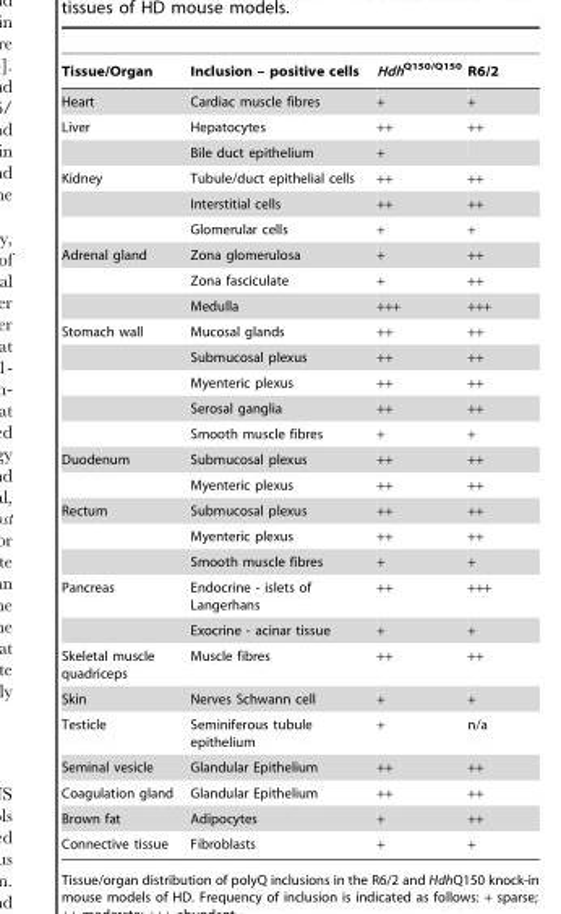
<table><thead><tr><td>Tissue/Organ</td><td>Inclusion – positive cells</td><td>Hdh<sup>Q150/Q150</sup></td><td>R6/2</td></tr></thead><tbody><tr><td>Heart</td><td>Cardiac muscle fibres</td><td>+</td><td>+</td></tr><tr><td rowspan="2">Liver</td><td>Hepatocytes</td><td>++</td><td>++</td></tr><tr><td>Bile duct epithelium</td><td>+</td><td></td></tr><tr><td rowspan="3">Kidney</td><td>Tubule/duct epithelial cells</td><td>++</td><td>++</td></tr><tr><td>Interstitial cells</td><td>++</td><td>++</td></tr><tr><td>Glomerular cells</td><td>+</td><td>+</td></tr><tr><td rowspan="3">Adrenal gland</td><td>Zona glomerulosa</td><td>+</td><td>++</td></tr><tr><td>Zona fasciculate</td><td>+</td><td>++</td></tr><tr><td>Medulla</td><td>+++</td><td>+++</td></tr><tr><td rowspan="5">Stomach wall</td><td>Mucosal glands</td><td>++</td><td>++</td></tr><tr><td>Submucosal plexus</td><td>++</td><td>++</td></tr><tr><td>Myenteric plexus</td><td>++</td><td>++</td></tr><tr><td>Serosal ganglia</td><td>++</td><td>++</td></tr><tr><td>Smooth muscle fibres</td><td>+</td><td>+</td></tr><tr><td rowspan="2">Duodenum</td><td>Submucosal plexus</td><td>++</td><td>++</td></tr><tr><td>Myenteric plexus</td><td>++</td><td>++</td></tr><tr><td rowspan="3">Rectum</td><td>Submucosal plexus</td><td>++</td><td>++</td></tr><tr><td>Myenteric plexus</td><td>++</td><td>++</td></tr><tr><td>Smooth muscle fibres</td><td>+</td><td>+</td></tr><tr><td rowspan="2">Pancreas</td><td>Endocrine - islets of Langerhans</td><td>++</td><td>+++</td></tr><tr><td>Exocrine - acinar tissue</td><td>+</td><td>+</td></tr><tr><td>Skeletal muscle quadriceps</td><td>Muscle fibres</td><td>++</td><td>++</td></tr><tr><td>Skin</td><td>Nerves Schwann cell</td><td>+</td><td>+</td></tr><tr><td>Testicle</td><td>Seminiferous tubule epithelium</td><td>+</td><td>n/a</td></tr><tr><td>Seminal vesicle</td><td>Glandular Epithelium</td><td>++</td><td>++</td></tr><tr><td>Coagulation gland</td><td>Glandular Epithelium</td><td>++</td><td>++</td></tr><tr><td>Brown fat</td><td>Adipocytes</td><td>+</td><td>++</td></tr><tr><td>Connective tissue</td><td>Fibroblasts</td><td>+</td><td>+</td></tr></tbody></table>